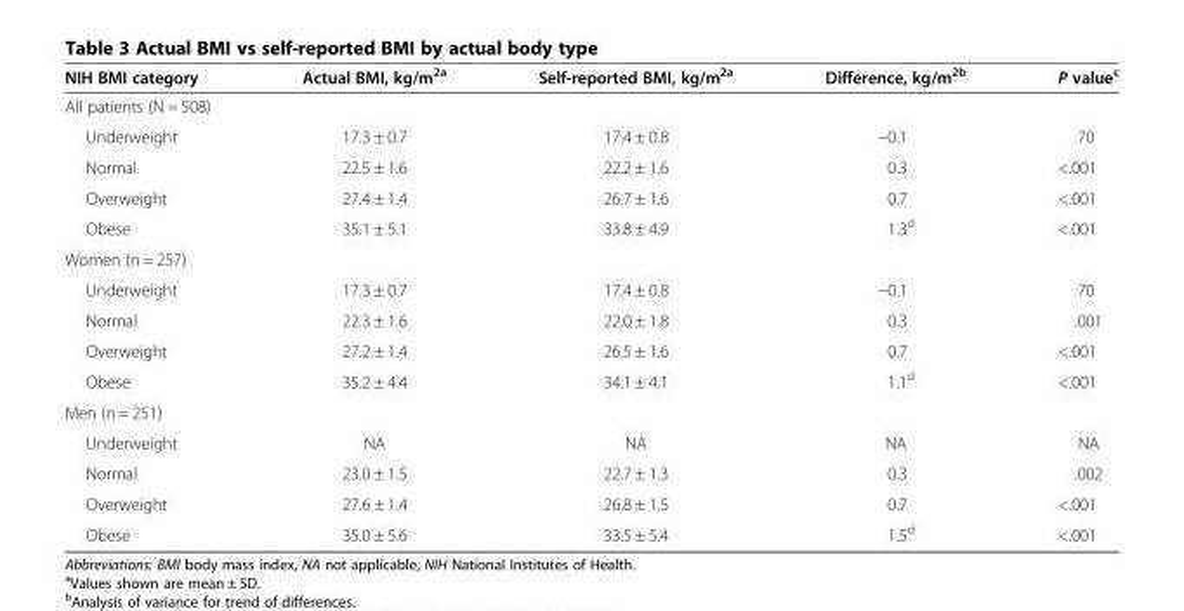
<table><thead><tr><td>NIH BMI category</td><td>Actual BMI, kg/m<sup>2a</sup></td><td>Self-reported BMI, kg/m<sup>2a</sup></td><td>Difference, kg/m<sup>2b</sup></td><td>P value<sup>c</sup></td></tr></thead><tbody><tr><td colspan="5">All patients (N = 508)</td></tr><tr><td>Underweight</td><td>17.3 ± 0.7</td><td>17.4 ± 0.8</td><td>−0.1</td><td>.70</td></tr><tr><td>Normal</td><td>22.5 ± 1.6</td><td>22.2 ± 1.6</td><td>0.3</td><td>&lt;.001</td></tr><tr><td>Overweight</td><td>27.4 ± 1.4</td><td>26.7 ± 1.6</td><td>0.7</td><td>&lt;.001</td></tr><tr><td>Obese</td><td>35.1 ± 5.1</td><td>33.8 ± 4.9</td><td>1.3<sup>d</sup></td><td>&lt;.001</td></tr><tr><td colspan="5">Women (n = 257)</td></tr><tr><td>Underweight</td><td>17.3 ± 0.7</td><td>17.4 ± 0.8</td><td>−0.1</td><td>.70</td></tr><tr><td>Normal</td><td>22.3 ± 1.6</td><td>22.0 ± 1.8</td><td>0.3</td><td>.001</td></tr><tr><td>Overweight</td><td>27.2 ± 1.4</td><td>26.5 ± 1.6</td><td>0.7</td><td>&lt;.001</td></tr><tr><td>Obese</td><td>35.2 ± 4.4</td><td>34.1 ± 4.1</td><td>1.1<sup>d</sup></td><td>&lt;.001</td></tr><tr><td colspan="5">Men (n = 251)</td></tr><tr><td>Underweight</td><td>NA</td><td>NA</td><td>NA</td><td>NA</td></tr><tr><td>Normal</td><td>23.0 ± 1.5</td><td>22.7 ± 1.3</td><td>0.3</td><td>.002</td></tr><tr><td>Overweight</td><td>27.6 ± 1.4</td><td>26.8 ± 1.5</td><td>0.7</td><td>&lt;.001</td></tr><tr><td>Obese</td><td>35.0 ± 5.6</td><td>33.5 ± 5.4</td><td>1.5<sup>d</sup></td><td>&lt;.001</td></tr></tbody></table>